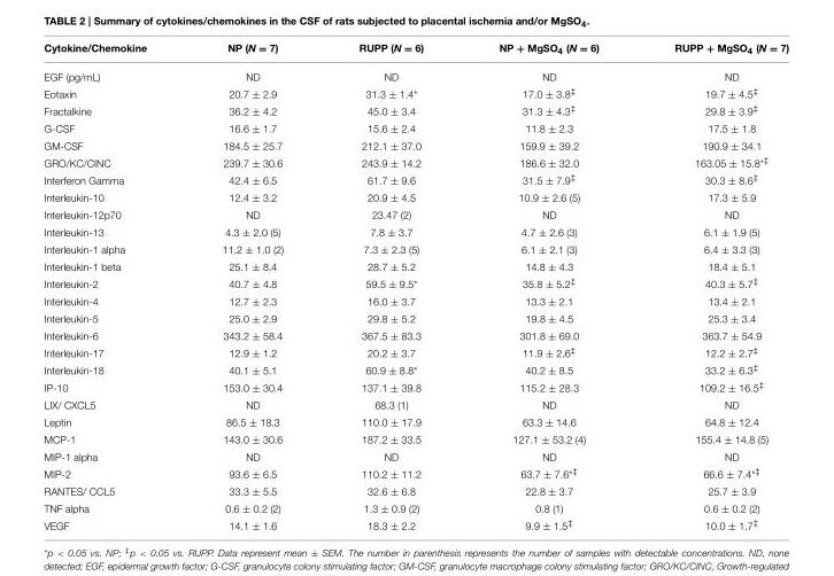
<table><thead><tr><td>Cytokine/Chemokine</td><td>NP (N = 7)</td><td>RUPP (N = 6)</td><td>NP + MgSO<sub>4</sub> (N = 6)</td><td>RUPP + MgSO<sub>4</sub> (N = 7)</td></tr></thead><tbody><tr><td>EGF (pg/mL)</td><td>ND</td><td>ND</td><td>ND</td><td>ND</td></tr><tr><td>Eotaxin</td><td>20.7 ± 2.9</td><td>31.3 ± 1.4*</td><td>17.0 ± 3.8<sup>‡</sup></td><td>19.7 ± 4.5<sup>‡</sup></td></tr><tr><td>Fractalkine</td><td>36.2 ± 4.2</td><td>45.0 ± 3.4</td><td>31.3 ± 4.3<sup>‡</sup></td><td>29.8 ± 3.9<sup>‡</sup></td></tr><tr><td>G-CSF</td><td>16.6 ± 1.7</td><td>15.6 ± 2.4</td><td>11.8 ± 2.3</td><td>17.5 ± 1.8</td></tr><tr><td>GM-CSF</td><td>184.5 ± 25.7</td><td>212.1 ± 37.0</td><td>159.9 ± 39.2</td><td>190.9 ± 34.1</td></tr><tr><td>GRO/KC/CINC</td><td>239.7 ± 30.6</td><td>243.9 ± 14.2</td><td>186.6 ± 32.0</td><td>163.05 ± 15.8<sup>*‡</sup></td></tr><tr><td>Interferon Gamma</td><td>42.4 ± 6.5</td><td>61.7 ± 9.6</td><td>31.5 ± 7.9<sup>‡</sup></td><td>30.3 ± 8.6<sup>‡</sup></td></tr><tr><td>Interleukin-10</td><td>12.4 ± 3.2</td><td>20.9 ± 4.5</td><td>10.9 ± 2.6 (5)</td><td>17.3 ± 5.9</td></tr><tr><td>Interleukin-12p70</td><td>ND</td><td>23.47 (2)</td><td>ND</td><td>ND</td></tr><tr><td>Interleukin-13</td><td>4.3 ± 2.0 (5)</td><td>7.8 ± 3.7</td><td>4.7 ± 2.6 (3)</td><td>6.1 ± 1.9 (5)</td></tr><tr><td>Interleukin-1 alpha</td><td>11.2 ± 1.0 (2)</td><td>7.3 ± 2.3 (5)</td><td>6.1 ± 2.1 (3)</td><td>6.4 ± 3.3 (3)</td></tr><tr><td>Interleukin-1 beta</td><td>25.1 ± 8.4</td><td>28.7 ± 5.2</td><td>14.8 ± 4.3</td><td>18.4 ± 5.1</td></tr><tr><td>Interleukin-2</td><td>40.7 ± 4.8</td><td>59.5 ± 9.5*</td><td>35.8 ± 5.2<sup>‡</sup></td><td>40.3 ± 5.7<sup>‡</sup></td></tr><tr><td>Interleukin-4</td><td>12.7 ± 2.3</td><td>16.0 ± 3.7</td><td>13.3 ± 2.1</td><td>13.4 ± 2.1</td></tr><tr><td>Interleukin-5</td><td>25.0 ± 2.9</td><td>29.8 ± 5.2</td><td>19.8 ± 4.5</td><td>25.3 ± 3.4</td></tr><tr><td>Interleukin-6</td><td>343.2 ± 58.4</td><td>367.5 ± 83.3</td><td>301.8 ± 69.0</td><td>363.7 ± 54.9</td></tr><tr><td>Interleukin-17</td><td>12.9 ± 1.2</td><td>20.2 ± 3.7</td><td>11.9 ± 2.6<sup>‡</sup></td><td>12.2 ± 2.7<sup>‡</sup></td></tr><tr><td>Interleukin-18</td><td>40.1 ± 5.1</td><td>60.9 ± 8.8*</td><td>40.2 ± 8.5</td><td>33.2 ± 6.3<sup>‡</sup></td></tr><tr><td>IP-10</td><td>153.0 ± 30.4</td><td>137.1 ± 39.8</td><td>115.2 ± 28.3</td><td>109.2 ± 16.5<sup>‡</sup></td></tr><tr><td>LIX/ CXCL5</td><td>ND</td><td>68.3 (1)</td><td>ND</td><td>ND</td></tr><tr><td>Leptin</td><td>86.5 ± 18.3</td><td>110.0 ± 17.9</td><td>63.3 ± 14.6</td><td>64.8 ± 12.4</td></tr><tr><td>MCP-1</td><td>143.0 ± 30.6</td><td>187.2 ± 33.5</td><td>127.1 ± 53.2 (4)</td><td>155.4 ± 14.8 (5)</td></tr><tr><td>MIP-1 alpha</td><td>ND</td><td>ND</td><td>ND</td><td>ND</td></tr><tr><td>MIP-2</td><td>93.6 ± 6.5</td><td>110.2 ± 11.2</td><td>63.7 ± 7.6<sup>*‡</sup></td><td>66.6 ± 7.4<sup>*‡</sup></td></tr><tr><td>RANTES/ CCL5</td><td>33.3 ± 5.5</td><td>32.6 ± 6.8</td><td>22.8 ± 3.7</td><td>25.7 ± 3.9</td></tr><tr><td>TNF alpha</td><td>0.6 ± 0.2 (2)</td><td>1.3 ± 0.9 (2)</td><td>0.8 (1)</td><td>0.6 ± 0.2 (2)</td></tr><tr><td>VEGF</td><td>14.1 ± 1.6</td><td>18.3 ± 2.2</td><td>9.9 ± 1.5<sup>‡</sup></td><td>10.0 ± 1.7<sup>‡</sup></td></tr></tbody></table>